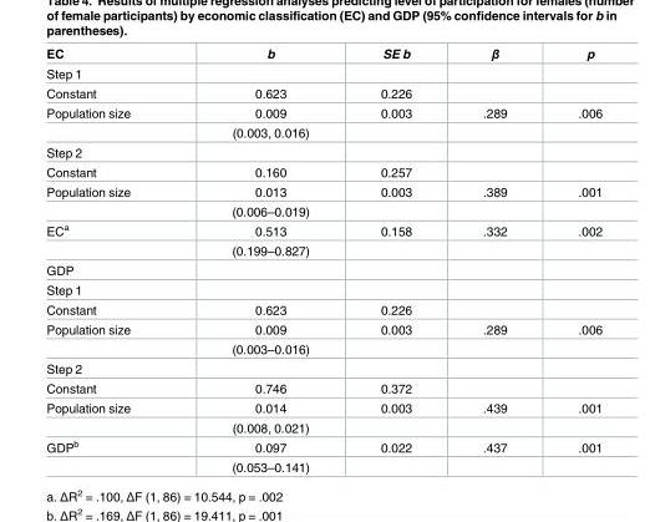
<table><thead><tr><td>EC</td><td>b</td><td>SE b</td><td>β</td><td>p</td></tr></thead><tbody><tr><td colspan="5">Step 1</td></tr><tr><td>Constant</td><td>0.623</td><td>0.226</td><td></td><td></td></tr><tr><td rowspan="2">Population size</td><td>0.009</td><td>0.003</td><td>.289</td><td>.006</td></tr><tr><td>(0.003, 0.016)</td><td></td><td></td><td></td></tr><tr><td colspan="5">Step 2</td></tr><tr><td>Constant</td><td>0.160</td><td>0.257</td><td></td><td></td></tr><tr><td rowspan="2">Population size</td><td>0.013</td><td>0.003</td><td>.389</td><td>.001</td></tr><tr><td>(0.006–0.019)</td><td></td><td></td><td></td></tr><tr><td rowspan="2">EC<sup>a</sup></td><td>0.513</td><td>0.158</td><td>.332</td><td>.002</td></tr><tr><td>(0.199–0.827)</td><td></td><td></td><td></td></tr><tr><td colspan="5">GDP</td></tr><tr><td colspan="5">Step 1</td></tr><tr><td>Constant</td><td>0.623</td><td>0.226</td><td></td><td></td></tr><tr><td rowspan="2">Population size</td><td>0.009</td><td>0.003</td><td>.289</td><td>.006</td></tr><tr><td>(0.003–0.016)</td><td></td><td></td><td></td></tr><tr><td colspan="5">Step 2</td></tr><tr><td>Constant</td><td>0.746</td><td>0.372</td><td></td><td></td></tr><tr><td rowspan="2">Population size</td><td>0.014</td><td>0.003</td><td>.439</td><td>.001</td></tr><tr><td>(0.008, 0.021)</td><td></td><td></td><td></td></tr><tr><td rowspan="2">GDP<sup>b</sup></td><td>0.097</td><td>0.022</td><td>.437</td><td>.001</td></tr><tr><td>(0.053–0.141)</td><td></td><td></td><td></td></tr></tbody></table>